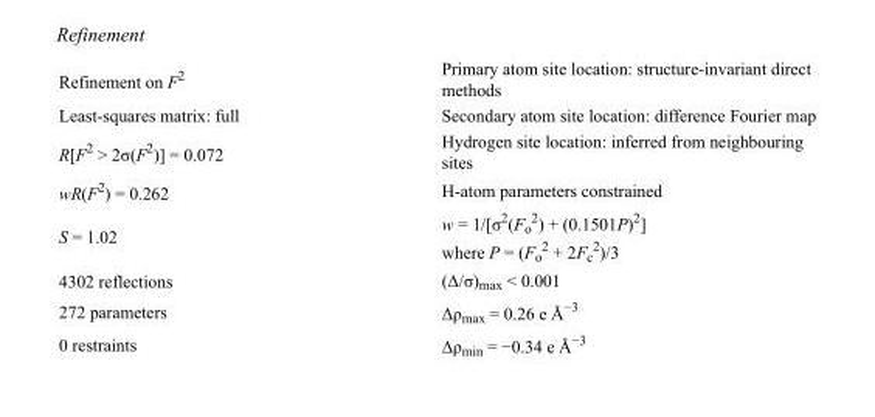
<table><tbody><tr><td>Refinement on F<sup>2</sup></td><td>Primary atom site location: structure-invariant direct methods</td></tr><tr><td>Least-squares matrix: full</td><td>Secondary atom site location: difference Fourier map</td></tr><tr><td>R[F<sup>2</sup> &gt; 2σ(F<sup>2</sup>)] = 0.072</td><td>Hydrogen site location: inferred from neighbouring sites</td></tr><tr><td>wR(F<sup>2</sup>) = 0.262</td><td>H-atom parameters constrained</td></tr><tr><td>S = 1.02</td><td>w = 1/[σ<sup>2</sup>(F<sub>o</sub> <sup>2</sup>) + (0.1501P)<sup>2</sup>] where P = (F<sub>o</sub> <sup>2</sup> + 2F<sub>c</sub> <sup>2</sup>)/3</td></tr><tr><td>4302 reflections</td><td>(Δ/σ)<sub>max</sub> &lt; 0.001</td></tr><tr><td>272 parameters</td><td>Δρ<sub>max</sub> = 0.26 e Å<sup>−3</sup></td></tr><tr><td>0 restraints</td><td>Δρ<sub>min</sub> = −0.34 e Å<sup>−3</sup></td></tr></tbody></table>